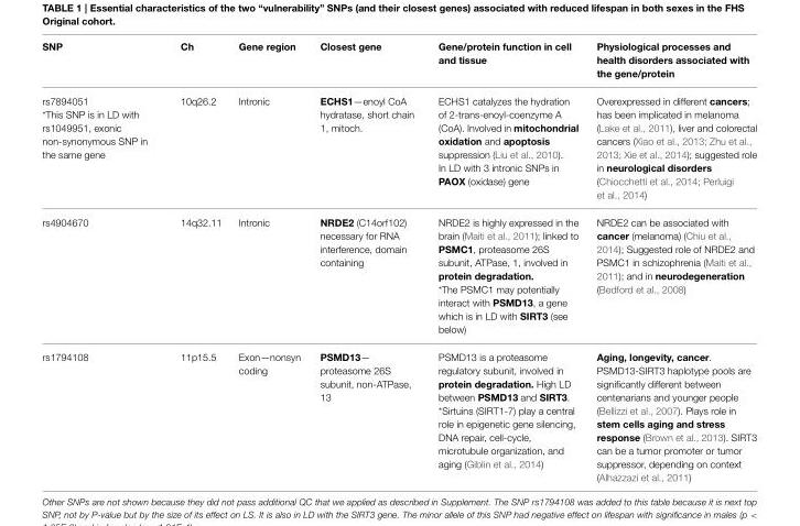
<table><thead><tr><td>SNP</td><td>Ch</td><td>Gene region</td><td>Closest gene</td><td>Gene/protein function in cell and tissue</td><td>Physiological processes and health disorders associated with the gene/protein</td></tr></thead><tbody><tr><td>rs7894051 *This SNP is in LD with rs1049951, exonic non-synonymous SNP in the same gene</td><td>10q26.2</td><td>Intronic</td><td>ECHS1—enoyl CoA hydratase, short chain 1, mitoch.</td><td>ECHS1 catalyzes the hydration of 2-trans-enoyl-coenzyme A (CoA). Involved in mitochondrial oxidation and apoptosis suppression (Liu et al., 2010). In LD with 3 intronic SNPs in PAOX (oxidase) gene</td><td>Overexpressed in different cancers; has been implicated in melanoma (Lake et al., 2011), liver and colorectal cancers (Xiao et al., 2013; Zhu et al., 2013; Xie et al., 2014); suggested role in neurological disorders (Chiocchetti et al., 2014; Perluigi et al., 2014)</td></tr><tr><td>rs4904670</td><td>14q32.11</td><td>Intronic</td><td>NRDE2 (C14orf102) necessary for RNA interference, domain containing</td><td>NRDE2 is highly expressed in the brain (Maiti et al., 2011); linked to PSMC1, proteasome 26S subunit, ATPase, 1, involved in protein degradation. *The PSMC1 may potentially interact with PSMD13, a gene which is in LD with SIRT3 (see below)</td><td>NRDE2 can be associated with cancer (melanoma) (Chiu et al., 2014); Suggested role of NRDE2 and PSMC1 in schizophrenia (Maiti et al., 2011); and in neurodegeneration (Bedford et al., 2008)</td></tr><tr><td>rs1794108</td><td>11p15.5</td><td>Exon—nonsyn coding</td><td>PSMD13— proteasome 26S subunit, non-ATPase, 13</td><td>PSMD13 is a proteasome regulatory subunit, involved in protein degradation. High LD between PSMD13 and SIRT3. *Sirtuins (SIRT1-7) play a central role in epigenetic gene silencing, DNA repair, cell-cycle, microtubule organization, and aging (Giblin et al., 2014)</td><td>Aging, longevity, cancer. PSMD13-SIRT3 haplotype pools are significantly different between centenarians and younger people (Bellizzi et al., 2007). Plays role in stem cells aging and stress response (Brown et al., 2013). SIRT3 can be a tumor promoter or tumor suppressor, depending on context (Alhazzazi et al., 2011)</td></tr></tbody></table>